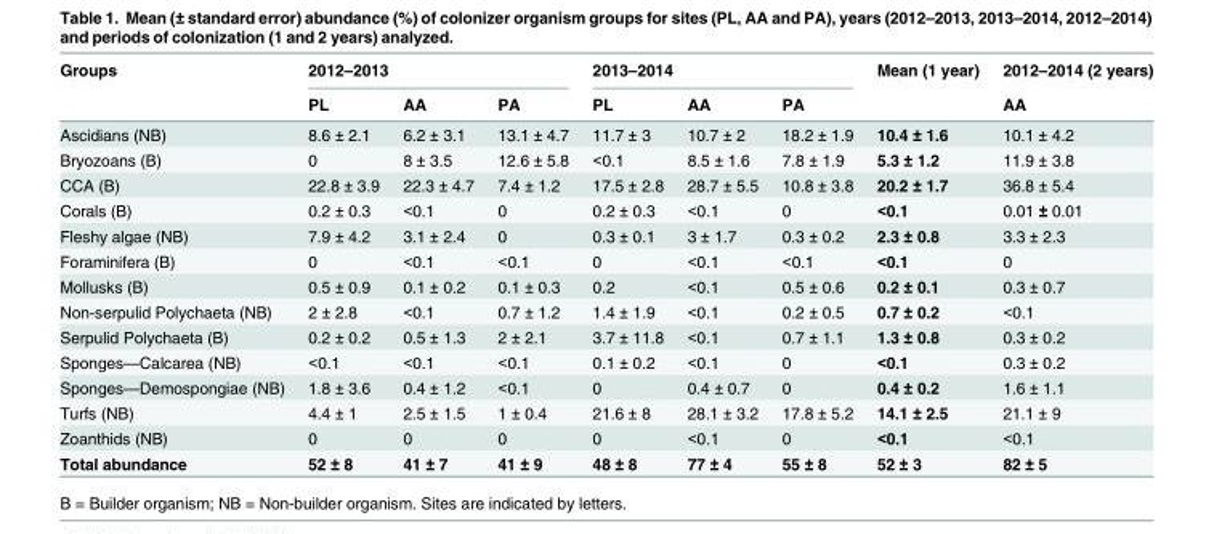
<table><thead><tr><td rowspan="2">Groups</td><td colspan="3">2012–2013</td><td colspan="3">2013–2014</td><td rowspan="2">Mean (1 year)</td><td rowspan="2">2012–2014 (2 years) AA</td></tr><tr><td>PL</td><td>AA</td><td>PA</td><td>PL</td><td>AA</td><td>PA</td></tr></thead><tbody><tr><td>Ascidians (NB)</td><td>8.6 ± 2.1</td><td>6.2 ± 3.1</td><td>13.1 ± 4.7</td><td>11.7 ± 3</td><td>10.7 ± 2</td><td>18.2 ± 1.9</td><td>10.4 ± 1.6</td><td>10.1 ± 4.2</td></tr><tr><td>Bryozoans (B)</td><td>0</td><td>8 ± 3.5</td><td>12.6 ± 5.8</td><td>&lt;0.1</td><td>8.5 ± 1.6</td><td>7.8 ± 1.9</td><td>5.3 ± 1.2</td><td>11.9 ± 3.8</td></tr><tr><td>CCA (B)</td><td>22.8 ± 3.9</td><td>22.3 ± 4.7</td><td>7.4 ± 1.2</td><td>17.5 ± 2.8</td><td>28.7 ± 5.5</td><td>10.8 ± 3.8</td><td>20.2 ± 1.7</td><td>36.8 ± 5.4</td></tr><tr><td>Corals (B)</td><td>0.2 ± 0.3</td><td>&lt;0.1</td><td>0</td><td>0.2 ± 0.3</td><td>&lt;0.1</td><td>0</td><td>&lt;0.1</td><td>0.01 ± 0.01</td></tr><tr><td>Fleshy algae (NB)</td><td>7.9 ± 4.2</td><td>3.1 ± 2.4</td><td>0</td><td>0.3 ± 0.1</td><td>3 ± 1.7</td><td>0.3 ± 0.2</td><td>2.3 ± 0.8</td><td>3.3 ± 2.3</td></tr><tr><td>Foraminifera (B)</td><td>0</td><td>&lt;0.1</td><td>&lt;0.1</td><td>0</td><td>&lt;0.1</td><td>&lt;0.1</td><td>&lt;0.1</td><td>0</td></tr><tr><td>Mollusks (B)</td><td>0.5 ± 0.9</td><td>0.1 ± 0.2</td><td>0.1 ± 0.3</td><td>0.2</td><td>&lt;0.1</td><td>0.5 ± 0.6</td><td>0.2 ± 0.1</td><td>0.3 ± 0.7</td></tr><tr><td>Non-serpulid Polychaeta (NB)</td><td>2 ± 2.8</td><td>&lt;0.1</td><td>0.7 ± 1.2</td><td>1.4 ± 1.9</td><td>&lt;0.1</td><td>0.2 ± 0.5</td><td>0.7 ± 0.2</td><td>&lt;0.1</td></tr><tr><td>Serpulid Polychaeta (B)</td><td>0.2 ± 0.2</td><td>0.5 ± 1.3</td><td>2 ± 2.1</td><td>3.7 ± 11.8</td><td>&lt;0.1</td><td>0.7 ± 1.1</td><td>1.3 ± 0.8</td><td>0.3 ± 0.2</td></tr><tr><td>Sponges—Calcarea (NB)</td><td>&lt;0.1</td><td>&lt;0.1</td><td>&lt;0.1</td><td>0.1 ± 0.2</td><td>&lt;0.1</td><td>0</td><td>&lt;0.1</td><td>0.3 ± 0.2</td></tr><tr><td>Sponges—Demospongiae (NB)</td><td>1.8 ± 3.6</td><td>0.4 ± 1.2</td><td>&lt;0.1</td><td>0</td><td>0.4 ± 0.7</td><td>0</td><td>0.4 ± 0.2</td><td>1.6 ± 1.1</td></tr><tr><td>Turfs (NB)</td><td>4.4 ± 1</td><td>2.5 ± 1.5</td><td>1 ± 0.4</td><td>21.6 ± 8</td><td>28.1 ± 3.2</td><td>17.8 ± 5.2</td><td>14.1 ± 2.5</td><td>21.1 ± 9</td></tr><tr><td>Zoanthids (NB)</td><td>0</td><td>0</td><td>0</td><td>0</td><td>&lt;0.1</td><td>0</td><td>&lt;0.1</td><td>&lt;0.1</td></tr><tr><td>Total abundance</td><td>52 ± 8</td><td>41 ± 7</td><td>41 ± 9</td><td>48 ± 8</td><td>77 ± 4</td><td>55 ± 8</td><td>52 ± 3</td><td>82 ± 5</td></tr></tbody></table>